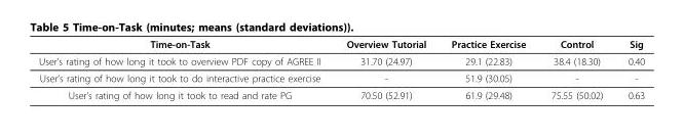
<table><thead><tr><td>Time-on-Task</td><td>Overview Tutorial</td><td>Practice Exercise</td><td>Control</td><td>Sig</td></tr></thead><tbody><tr><td>User’s rating of how long it took to overview PDF copy of AGREE II</td><td>31.70 (24.97)</td><td>29.1 (22.83)</td><td>38.4 (18.30)</td><td>0.40</td></tr><tr><td>User’s rating of how long it took to do interactive practice exercise</td><td>-</td><td>51.9 (30.05)</td><td>-</td><td>-</td></tr><tr><td>User’s rating of how long it took to read and rate PG</td><td>70.50 (52.91)</td><td>61.9 (29.48)</td><td>75.55 (50.02)</td><td>0.63</td></tr></tbody></table>